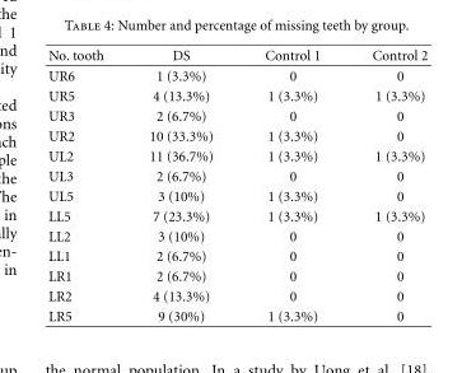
<table><thead><tr><td>No. tooth</td><td>DS</td><td>Control 1</td><td>Control 2</td></tr></thead><tbody><tr><td>UR6</td><td>1 (3.3%)</td><td>0</td><td>0</td></tr><tr><td>UR5</td><td>4 (13.3%)</td><td>1 (3.3%)</td><td>1 (3.3%)</td></tr><tr><td>UR3</td><td>2 (6.7%)</td><td>0</td><td>0</td></tr><tr><td>UR2</td><td>10 (33.3%)</td><td>1 (3.3%)</td><td>0</td></tr><tr><td>UL2</td><td>11 (36.7%)</td><td>1 (3.3%)</td><td>1 (3.3%)</td></tr><tr><td>UL3</td><td>2 (6.7%)</td><td>0</td><td>0</td></tr><tr><td>UL5</td><td>3 (10%)</td><td>1 (3.3%)</td><td>0</td></tr><tr><td>LL5</td><td>7 (23.3%)</td><td>1 (3.3%)</td><td>1 (3.3%)</td></tr><tr><td>LL2</td><td>3 (10%)</td><td>0</td><td>0</td></tr><tr><td>LL1</td><td>2 (6.7%)</td><td>0</td><td>0</td></tr><tr><td>LR1</td><td>2 (6.7%)</td><td>0</td><td>0</td></tr><tr><td>LR2</td><td>4 (13.3%)</td><td>0</td><td>0</td></tr><tr><td>LR5</td><td>9 (30%)</td><td>1 (3.3%)</td><td>0</td></tr></tbody></table>